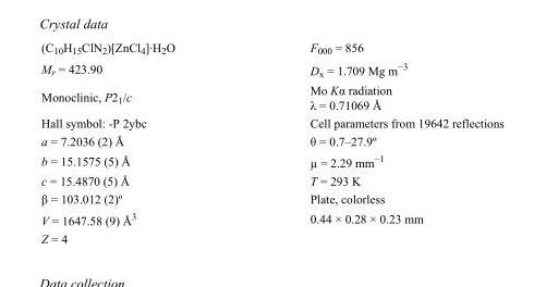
<table><tbody><tr><td>(C<sub>10</sub>H<sub>15</sub>ClN<sub>2</sub>)[ZnCl<sub>4</sub>]·H<sub>2</sub>O</td><td>F<sub>000</sub> = 856</td></tr><tr><td>M<sub>r</sub> = 423.90</td><td>D<sub>x</sub> = 1.709 Mg m<sup>−3</sup></td></tr><tr><td>Monoclinic, P2<sub>1</sub>/c</td><td>Mo Kα radiation λ = 0.71069 Å</td></tr><tr><td>Hall symbol: -P 2ybc</td><td>Cell parameters from 19642 reflections</td></tr><tr><td>a = 7.2036 (2) Å</td><td>θ = 0.7–27.9º</td></tr><tr><td>b = 15.1575 (5) Å</td><td>µ = 2.29 mm<sup>−1</sup></td></tr><tr><td>c = 15.4870 (5) Å</td><td>T = 293 K</td></tr><tr><td>β = 103.012 (2)º</td><td>Plate, colorless</td></tr><tr><td>V = 1647.58 (9) Å<sup>3</sup></td><td>0.44 × 0.28 × 0.23 mm</td></tr><tr><td>Z = 4</td><td></td></tr></tbody></table>